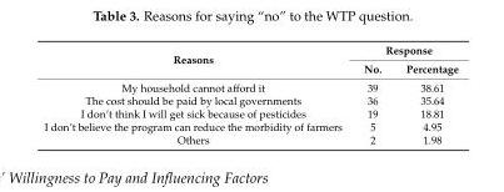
<table><thead><tr><td rowspan="2">Reasons</td><td colspan="2">Response</td></tr><tr><td>No.</td><td>Percentage</td></tr></thead><tbody><tr><td>My household cannot afford it</td><td>39</td><td>38.61</td></tr><tr><td>The cost should be paid by local governments</td><td>36</td><td>35.64</td></tr><tr><td>I don’t think I will get sick because of pesticides</td><td>19</td><td>18.81</td></tr><tr><td>I don’t believe the program can reduce the morbidity of farmers</td><td>5</td><td>4.95</td></tr><tr><td>Others</td><td>2</td><td>1.98</td></tr></tbody></table>